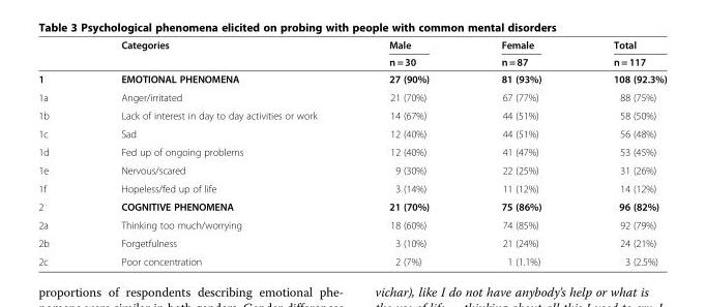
<table><thead><tr><td rowspan="2"></td><td rowspan="2">Categories</td><td rowspan="2">Male n = 30</td><td rowspan="2">Female n = 87</td><td rowspan="2">Total n = 117</td></tr><tr></tr></thead><tbody><tr><td>1</td><td>EMOTIONAL PHENOMENA</td><td>27 (90%)</td><td>81 (93%)</td><td>108 (92.3%)</td></tr><tr><td>1a</td><td>Anger/irritated</td><td>21 (70%)</td><td>67 (77%)</td><td>88 (75%)</td></tr><tr><td>1b</td><td>Lack of interest in day to day activities or work</td><td>14 (67%)</td><td>44 (51%)</td><td>58 (50%)</td></tr><tr><td>1c</td><td>Sad</td><td>12 (40%)</td><td>44 (51%)</td><td>56 (48%)</td></tr><tr><td>1d</td><td>Fed up of ongoing problems</td><td>12 (40%)</td><td>41 (47%)</td><td>53 (45%)</td></tr><tr><td>1e</td><td>Nervous/scared</td><td>9 (30%)</td><td>22 (25%)</td><td>31 (26%)</td></tr><tr><td>1f</td><td>Hopeless/fed up of life</td><td>3 (14%)</td><td>11 (12%)</td><td>14 (12%)</td></tr><tr><td>2</td><td>COGNITIVE PHENOMENA</td><td>21 (70%)</td><td>75 (86%)</td><td>96 (82%)</td></tr><tr><td>2a</td><td>Thinking too much/worrying</td><td>18 (60%)</td><td>74 (85%)</td><td>92 (79%)</td></tr><tr><td>2b</td><td>Forgetfulness</td><td>3 (10%)</td><td>21 (24%)</td><td>24 (21%)</td></tr><tr><td>2c</td><td>Poor concentration</td><td>2 (7%)</td><td>1 (1.1%)</td><td>3 (2.5%)</td></tr></tbody></table>